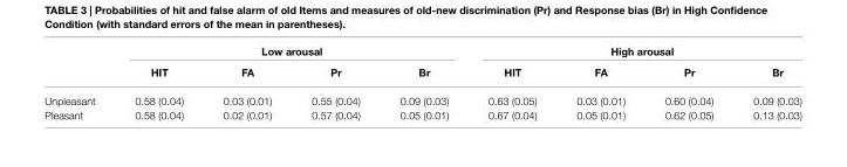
<table><thead><tr><td rowspan="2"></td><td colspan="4">Low arousal</td><td colspan="4">High arousal</td></tr><tr><td>HIT</td><td>FA</td><td>Pr</td><td>Br</td><td>HIT</td><td>FA</td><td>Pr</td><td>Br</td></tr></thead><tbody><tr><td>Unpleasant</td><td>0.58 (0.04)</td><td>0.03 (0.01)</td><td>0.55 (0.04)</td><td>0.09 (0.03)</td><td>0.63 (0.05)</td><td>0.03 (0.01)</td><td>0.60 (0.04)</td><td>0.09 (0.03)</td></tr><tr><td>Pleasant</td><td>0.58 (0.04)</td><td>0.02 (0.01)</td><td>0.57 (0.04)</td><td>0.05 (0.01)</td><td>0.67 (0.04)</td><td>0.05 (0.01)</td><td>0.62 (0.05)</td><td>0.13 (0.03)</td></tr></tbody></table>